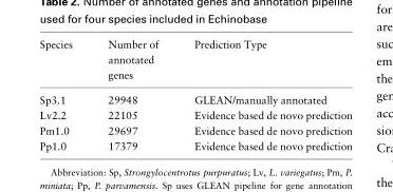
<table><thead><tr><td>Species</td><td>Number of annotated genes</td><td>Prediction Type</td></tr></thead><tbody><tr><td>Sp3.1</td><td>29948</td><td>GLEAN/manually annotated</td></tr><tr><td>Lv2.2</td><td>22105</td><td>Evidence based de novo prediction</td></tr><tr><td>Pm1.0</td><td>29697</td><td>Evidence based de novo prediction</td></tr><tr><td>Pp1.0</td><td>17379</td><td>Evidence based de novo prediction</td></tr></tbody></table>